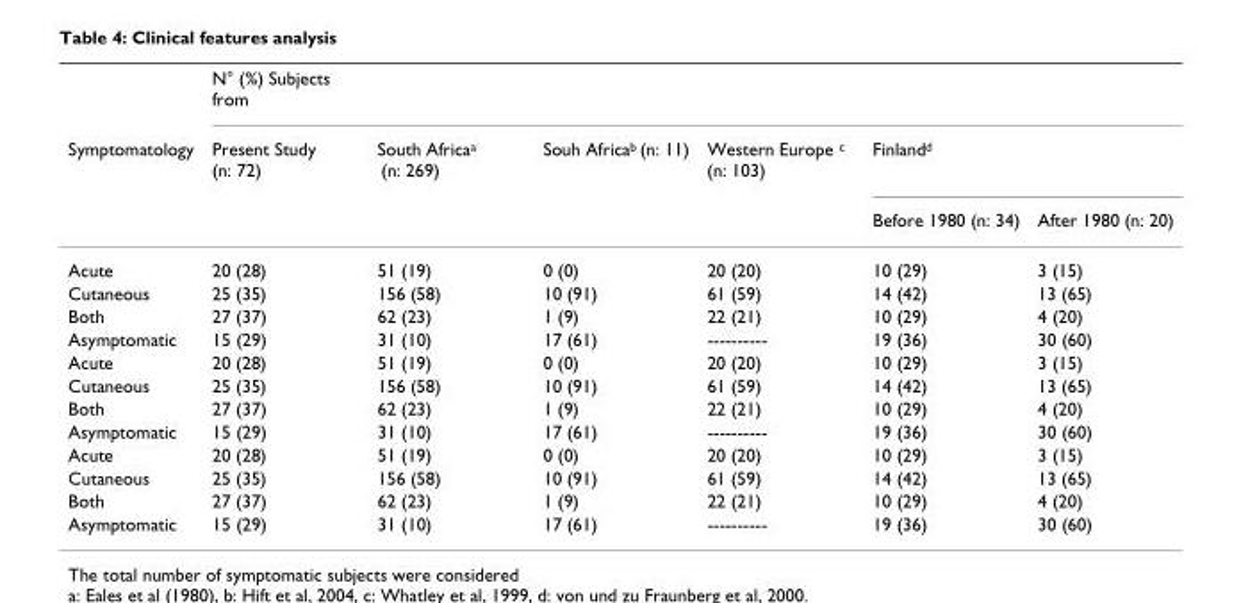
<table><thead><tr><td rowspan="3">Symptomatology</td><td rowspan="3">N° (%) Subjects from Present Study (n: 72)</td><td rowspan="3">South Africa<sup>a</sup> (n: 269)</td><td rowspan="3">Souh Africa<sup>b</sup> (n: 11)</td><td rowspan="3">Western Europe <sup>c</sup> (n: 103)</td><td></td><td></td></tr><tr><td colspan="2">Finland<sup>d</sup></td></tr><tr><td>Before 1980 (n: 34)</td><td>After 1980 (n: 20)</td></tr></thead><tbody><tr><td>Acute</td><td>20 (28)</td><td>51 (19)</td><td>0 (0)</td><td>20 (20)</td><td>10 (29)</td><td>3 (15)</td></tr><tr><td>Cutaneous</td><td>25 (35)</td><td>156 (58)</td><td>10 (91)</td><td>61 (59)</td><td>14 (42)</td><td>13 (65)</td></tr><tr><td>Both</td><td>27 (37)</td><td>62 (23)</td><td>1 (9)</td><td>22 (21)</td><td>10 (29)</td><td>4 (20)</td></tr><tr><td>Asymptomatic</td><td>15 (29)</td><td>31 (10)</td><td>17 (61)</td><td>----------</td><td>19 (36)</td><td>30 (60)</td></tr><tr><td>Acute</td><td>20 (28)</td><td>51 (19)</td><td>0 (0)</td><td>20 (20)</td><td>10 (29)</td><td>3 (15)</td></tr><tr><td>Cutaneous</td><td>25 (35)</td><td>156 (58)</td><td>10 (91)</td><td>61 (59)</td><td>14 (42)</td><td>13 (65)</td></tr><tr><td>Both</td><td>27 (37)</td><td>62 (23)</td><td>1 (9)</td><td>22 (21)</td><td>10 (29)</td><td>4 (20)</td></tr><tr><td>Asymptomatic</td><td>15 (29)</td><td>31 (10)</td><td>17 (61)</td><td>----------</td><td>19 (36)</td><td>30 (60)</td></tr><tr><td>Acute</td><td>20 (28)</td><td>51 (19)</td><td>0 (0)</td><td>20 (20)</td><td>10 (29)</td><td>3 (15)</td></tr><tr><td>Cutaneous</td><td>25 (35)</td><td>156 (58)</td><td>10 (91)</td><td>61 (59)</td><td>14 (42)</td><td>13 (65)</td></tr><tr><td>Both</td><td>27 (37)</td><td>62 (23)</td><td>1 (9)</td><td>22 (21)</td><td>10 (29)</td><td>4 (20)</td></tr><tr><td>Asymptomatic</td><td>15 (29)</td><td>31 (10)</td><td>17 (61)</td><td>----------</td><td>19 (36)</td><td>30 (60)</td></tr></tbody></table>